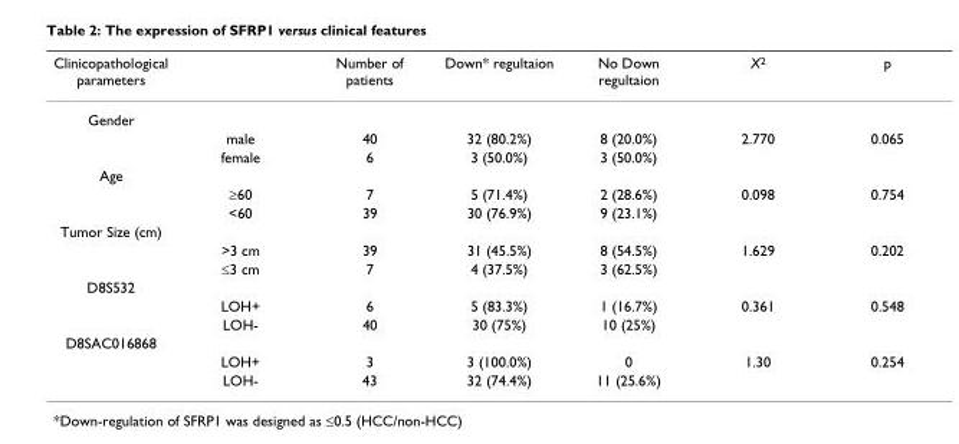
<table><thead><tr><td>Clinicopathological parameters</td><td></td><td>Number of patients</td><td>Down* regultaion</td><td>No Down regultaion</td><td>X<sup>2</sup></td><td>p</td></tr></thead><tbody><tr><td colspan="7">Gender</td></tr><tr><td></td><td>male</td><td>40</td><td>32 (80.2%)</td><td>8 (20.0%)</td><td>2.770</td><td>0.065</td></tr><tr><td></td><td>female</td><td>6</td><td>3 (50.0%)</td><td>3 (50.0%)</td><td></td><td></td></tr><tr><td colspan="7">Age</td></tr><tr><td></td><td>≥60</td><td>7</td><td>5 (71.4%)</td><td>2 (28.6%)</td><td>0.098</td><td>0.754</td></tr><tr><td></td><td>&lt;60</td><td>39</td><td>30 (76.9%)</td><td>9 (23.1%)</td><td></td><td></td></tr><tr><td colspan="7">Tumor Size (cm)</td></tr><tr><td></td><td>&gt;3 cm</td><td>39</td><td>31 (45.5%)</td><td>8 (54.5%)</td><td>1.629</td><td>0.202</td></tr><tr><td></td><td>≤3 cm</td><td>7</td><td>4 (37.5%)</td><td>3 (62.5%)</td><td></td><td></td></tr><tr><td colspan="7">D8S532</td></tr><tr><td></td><td>LOH+</td><td>6</td><td>5 (83.3%)</td><td>1 (16.7%)</td><td>0.361</td><td>0.548</td></tr><tr><td></td><td>LOH-</td><td>40</td><td>30 (75%)</td><td>10 (25%)</td><td></td><td></td></tr><tr><td colspan="7">D8SAC016868</td></tr><tr><td></td><td>LOH+</td><td>3</td><td>3 (100.0%)</td><td>0</td><td>1.30</td><td>0.254</td></tr><tr><td></td><td>LOH-</td><td>43</td><td>32 (74.4%)</td><td>11 (25.6%)</td><td></td><td></td></tr></tbody></table>